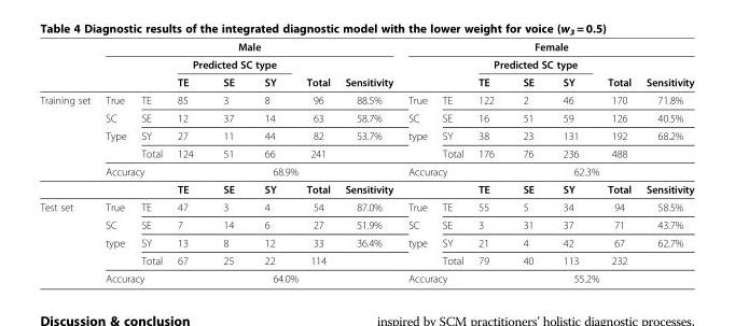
<table><thead><tr><td rowspan="3"></td><td colspan="7">Male</td><td colspan="7">Female</td></tr><tr><td rowspan="2"></td><td rowspan="2"></td><td colspan="3">Predicted SC type</td><td rowspan="2">Total</td><td rowspan="2">Sensitivity</td><td rowspan="2"></td><td rowspan="2"></td><td colspan="3">Predicted SC type</td><td rowspan="2">Total</td><td rowspan="2">Sensitivity</td></tr><tr><td>TE</td><td>SE</td><td>SY</td><td>TE</td><td>SE</td><td>SY</td></tr></thead><tbody><tr><td rowspan="6">Training set</td><td>True</td><td>TE</td><td>85</td><td>3</td><td>8</td><td>96</td><td>88.5%</td><td>True</td><td>TE</td><td>122</td><td>2</td><td>46</td><td>170</td><td>71.8%</td></tr><tr><td>SC</td><td>SE</td><td>12</td><td>37</td><td>14</td><td>63</td><td>58.7%</td><td>SC</td><td>SE</td><td>16</td><td>51</td><td>59</td><td>126</td><td>40.5%</td></tr><tr><td>Type</td><td>SY</td><td>27</td><td>11</td><td>44</td><td>82</td><td>53.7%</td><td>type</td><td>SY</td><td>38</td><td>23</td><td>131</td><td>192</td><td>68.2%</td></tr><tr><td></td><td>Total</td><td>124</td><td>51</td><td>66</td><td>241</td><td></td><td></td><td>Total</td><td>176</td><td>76</td><td>236</td><td>488</td><td></td></tr><tr><td colspan="2">Accuracy</td><td colspan="5">68.9%</td><td colspan="2">Accuracy</td><td colspan="5">62.3%</td></tr><tr><td></td><td></td><td>TE</td><td>SE</td><td>SY</td><td>Total</td><td>Sensitivity</td><td></td><td></td><td>TE</td><td>SE</td><td>SY</td><td>Total</td><td>Sensitivity</td></tr><tr><td rowspan="5">Test set</td><td>True</td><td>TE</td><td>47</td><td>3</td><td>4</td><td>54</td><td>87.0%</td><td>True</td><td>TE</td><td>55</td><td>5</td><td>34</td><td>94</td><td>58.5%</td></tr><tr><td>SC</td><td>SE</td><td>7</td><td>14</td><td>6</td><td>27</td><td>51.9%</td><td>SC</td><td>SE</td><td>3</td><td>31</td><td>37</td><td>71</td><td>43.7%</td></tr><tr><td>type</td><td>SY</td><td>13</td><td>8</td><td>12</td><td>33</td><td>36.4%</td><td>type</td><td>SY</td><td>21</td><td>4</td><td>42</td><td>67</td><td>62.7%</td></tr><tr><td></td><td>Total</td><td>67</td><td>25</td><td>22</td><td>114</td><td></td><td></td><td>Total</td><td>79</td><td>40</td><td>113</td><td>232</td><td></td></tr><tr><td colspan="2">Accuracy</td><td colspan="5">64.0%</td><td colspan="2">Accuracy</td><td colspan="5">55.2%</td></tr></tbody></table>